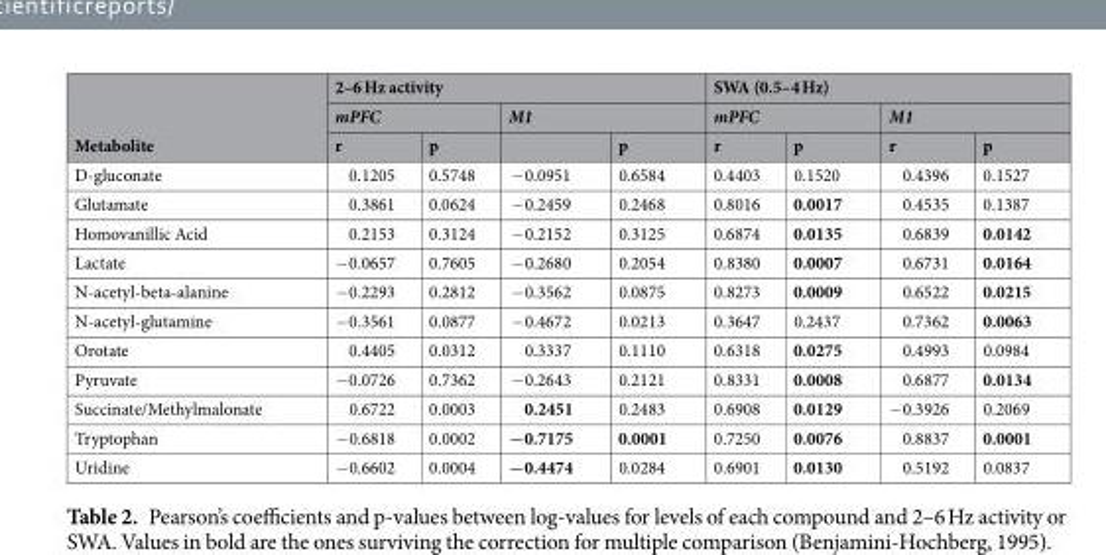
<table><thead><tr><td rowspan="3">Metabolite</td><td colspan="4">2–6 Hz activity</td><td colspan="4">SWA (0.5–4 Hz)</td></tr><tr><td colspan="2">mPFC</td><td colspan="2">M1</td><td colspan="2">mPFC</td><td colspan="2">M1</td></tr><tr><td>r</td><td>p</td><td></td><td>p</td><td>r</td><td>p</td><td>r</td><td>p</td></tr></thead><tbody><tr><td>D-gluconate</td><td>0.1205</td><td>0.5748</td><td>−0.0951</td><td>0.6584</td><td>0.4403</td><td>0.1520</td><td>0.4396</td><td>0.1527</td></tr><tr><td>Glutamate</td><td>0.3861</td><td>0.0624</td><td>−0.2459</td><td>0.2468</td><td>0.8016</td><td>0.0017</td><td>0.4535</td><td>0.1387</td></tr><tr><td>Homovanillic Acid</td><td>0.2153</td><td>0.3124</td><td>−0.2152</td><td>0.3125</td><td>0.6874</td><td>0.0135</td><td>0.6839</td><td>0.0142</td></tr><tr><td>Lactate</td><td>−0.0657</td><td>0.7605</td><td>−0.2680</td><td>0.2054</td><td>0.8380</td><td>0.0007</td><td>0.6731</td><td>0.0164</td></tr><tr><td>N-acetyl-beta-alanine</td><td>−0.2293</td><td>0.2812</td><td>−0.3562</td><td>0.0875</td><td>0.8273</td><td>0.0009</td><td>0.6522</td><td>0.0215</td></tr><tr><td>N-acetyl-glutamine</td><td>−0.3561</td><td>0.0877</td><td>−0.4672</td><td>0.0213</td><td>0.3647</td><td>0.2437</td><td>0.7362</td><td>0.0063</td></tr><tr><td>Orotate</td><td>0.4405</td><td>0.0312</td><td>0.3337</td><td>0.1110</td><td>0.6318</td><td>0.0275</td><td>0.4993</td><td>0.0984</td></tr><tr><td>Pyruvate</td><td>−0.0726</td><td>0.7362</td><td>−0.2643</td><td>0.2121</td><td>0.8331</td><td>0.0008</td><td>0.6877</td><td>0.0134</td></tr><tr><td>Succinate/Methylmalonate</td><td>0.6722</td><td>0.0003</td><td>0.2451</td><td>0.2483</td><td>0.6908</td><td>0.0129</td><td>−0.3926</td><td>0.2069</td></tr><tr><td>Tryptophan</td><td>−0.6818</td><td>0.0002</td><td>−0.7175</td><td>0.0001</td><td>0.7250</td><td>0.0076</td><td>0.8837</td><td>0.0001</td></tr><tr><td>Uridine</td><td>−0.6602</td><td>0.0004</td><td>−0.4474</td><td>0.0284</td><td>0.6901</td><td>0.0130</td><td>0.5192</td><td>0.0837</td></tr></tbody></table>